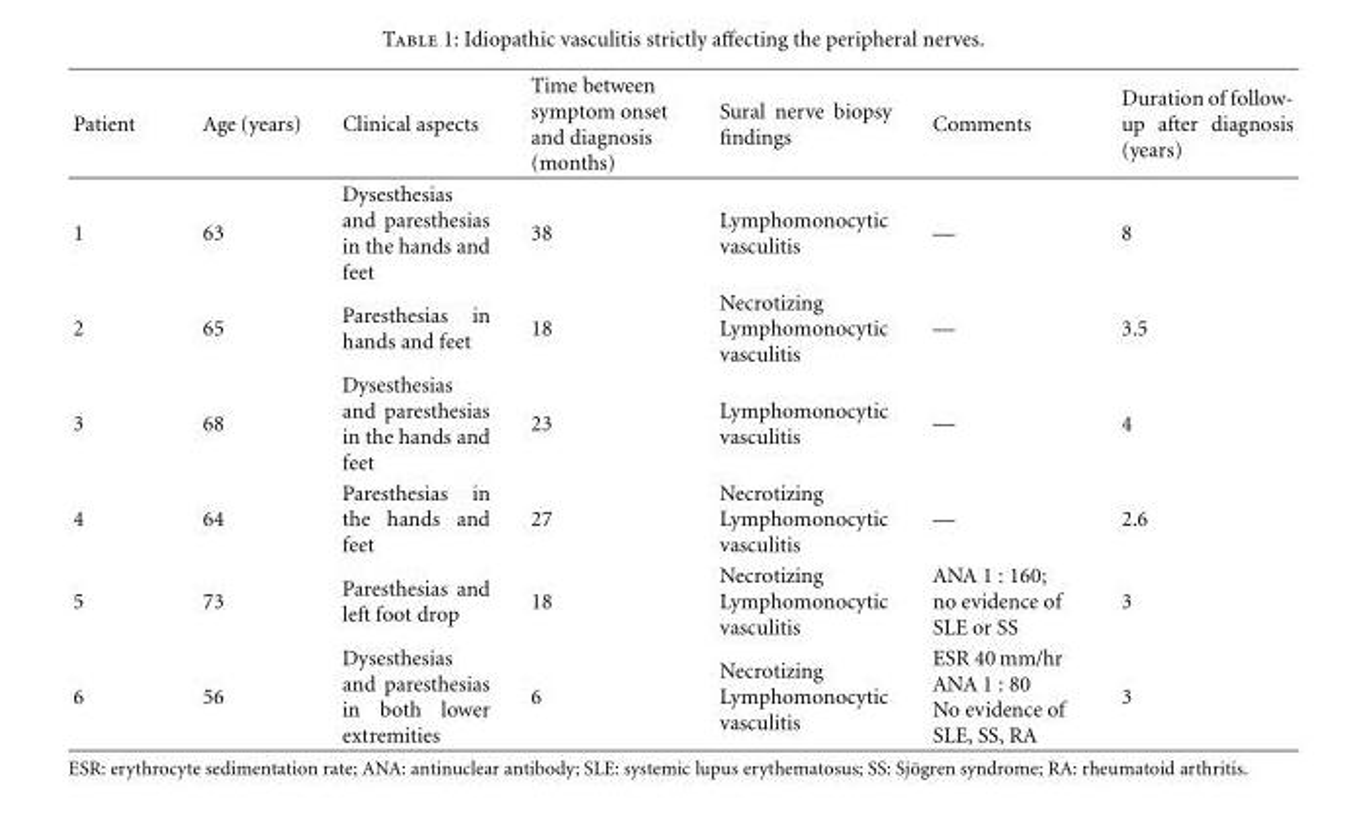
<table><thead><tr><td>Patient</td><td>Age (years)</td><td>Clinical aspects</td><td>Time between symptom onset and diagnosis (months)</td><td>Sural nerve biopsy findings</td><td>Comments</td><td>Duration of follow- up after diagnosis (years)</td></tr></thead><tbody><tr><td>1</td><td>63</td><td>Dysesthesias and paresthesias in the hands and feet</td><td>38</td><td>Lymphomonocytic vasculitis</td><td>—</td><td>8</td></tr><tr><td>2</td><td>65</td><td>Paresthesias in hands and feet</td><td>18</td><td>Necrotizing Lymphomonocytic vasculitis</td><td>—</td><td>3.5</td></tr><tr><td>3</td><td>68</td><td>Dysesthesias and paresthesias in the hands and feet</td><td>23</td><td>Lymphomonocytic vasculitis</td><td>—</td><td>4</td></tr><tr><td>4</td><td>64</td><td>Paresthesias in the hands and feet</td><td>27</td><td>Necrotizing Lymphomonocytic vasculitis</td><td>—</td><td>2.6</td></tr><tr><td>5</td><td>73</td><td>Paresthesias and left foot drop</td><td>18</td><td>Necrotizing Lymphomonocytic vasculitis</td><td>ANA 1 : 160; no evidence of SLE or SS</td><td>3</td></tr><tr><td>6</td><td>56</td><td>Dysesthesias and paresthesias in both lower extremities</td><td>6</td><td>Necrotizing Lymphomonocytic vasculitis</td><td>ESR 40 mm/hr ANA 1 : 80 No evidence of SLE, SS, RA</td><td>3</td></tr></tbody></table>